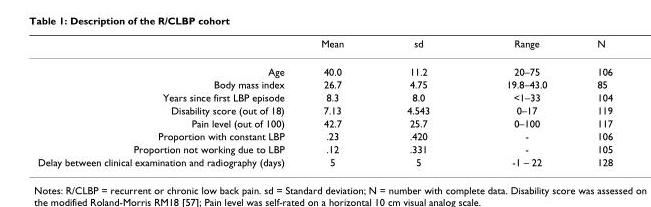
<table><thead><tr><td></td><td>Mean</td><td>sd</td><td>Range</td><td>N</td></tr></thead><tbody><tr><td>Age</td><td>40.0</td><td>11.2</td><td>20–75</td><td>106</td></tr><tr><td>Body mass index</td><td>26.7</td><td>4.75</td><td>19.8–43.0</td><td>85</td></tr><tr><td>Years since first LBP episode</td><td>8.3</td><td>8.0</td><td>&lt;1–33</td><td>104</td></tr><tr><td>Disability score (out of 18)</td><td>7.13</td><td>4.543</td><td>0–17</td><td>119</td></tr><tr><td>Pain level (out of 100)</td><td>42.7</td><td>25.7</td><td>0–100</td><td>117</td></tr><tr><td>Proportion with constant LBP</td><td>.23</td><td>.420</td><td>-</td><td>106</td></tr><tr><td>Proportion not working due to LBP</td><td>.12</td><td>.331</td><td>-</td><td>105</td></tr><tr><td>Delay between clinical examination and radiography (days)</td><td>5</td><td>5</td><td>-1 – 22</td><td>128</td></tr></tbody></table>